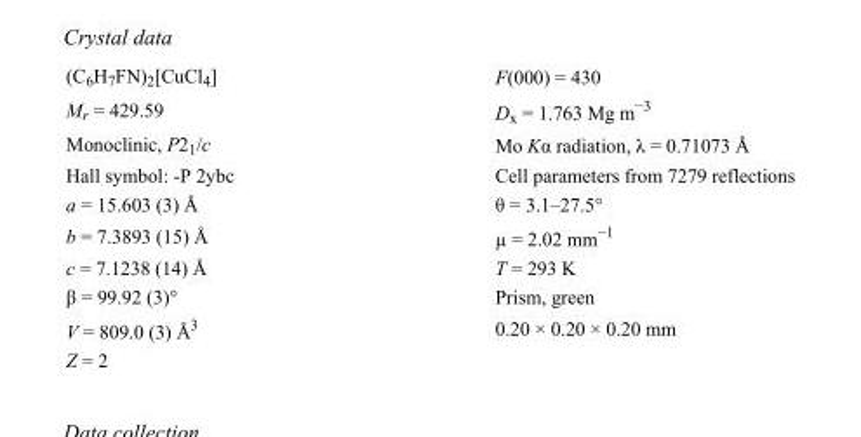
<table><tbody><tr><td>(C<sub>6</sub>H<sub>7</sub>FN)<sub>2</sub>[CuCl<sub>4</sub>]</td><td>F(000) = 430</td></tr><tr><td>M<sub>r</sub> = 429.59</td><td>D<sub>x</sub> = 1.763 Mg m<sup>−3</sup></td></tr><tr><td>Monoclinic, P2<sub>1</sub>/c</td><td>Mo Kα radiation, λ = 0.71073 Å</td></tr><tr><td>Hall symbol: -P 2ybc</td><td>Cell parameters from 7279 reflections</td></tr><tr><td>a = 15.603 (3) Å</td><td>θ = 3.1–27.5°</td></tr><tr><td>b = 7.3893 (15) Å</td><td>µ = 2.02 mm<sup>−1</sup></td></tr><tr><td>c = 7.1238 (14) Å</td><td>T = 293 K</td></tr><tr><td>β = 99.92 (3)°</td><td>Prism, green</td></tr><tr><td>V = 809.0 (3) Å<sup>3</sup></td><td>0.20 × 0.20 × 0.20 mm</td></tr><tr><td>Z = 2</td><td></td></tr></tbody></table>